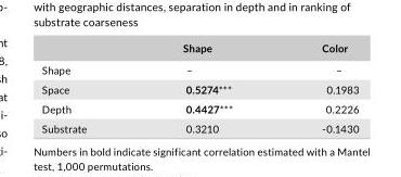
<table><thead><tr><td></td><td>Shape</td><td>Color</td></tr></thead><tbody><tr><td>Shape</td><td>–</td><td>–</td></tr><tr><td>Space</td><td>0.5274***</td><td>0.1983</td></tr><tr><td>Depth</td><td>0.4427***</td><td>0.2226</td></tr><tr><td>Substrate</td><td>0.3210</td><td>- 0.1430</td></tr></tbody></table>